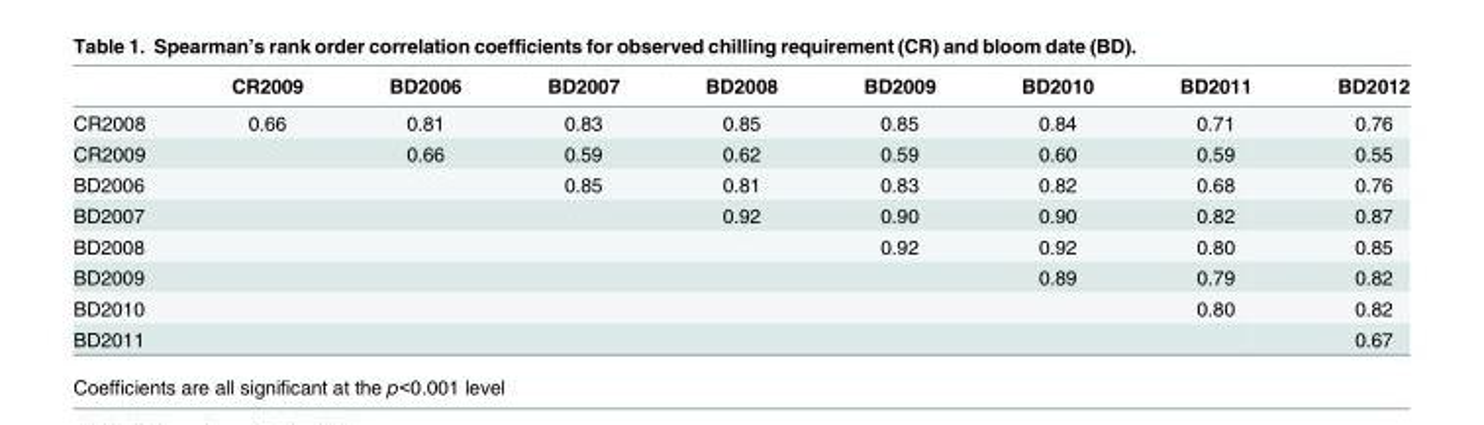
<table><thead><tr><td></td><td>CR2009</td><td>BD2006</td><td>BD2007</td><td>BD2008</td><td>BD2009</td><td>BD2010</td><td>BD2011</td><td>BD2012</td></tr></thead><tbody><tr><td>CR2008</td><td>0.66</td><td>0.81</td><td>0.83</td><td>0.85</td><td>0.85</td><td>0.84</td><td>0.71</td><td>0.76</td></tr><tr><td>CR2009</td><td></td><td>0.66</td><td>0.59</td><td>0.62</td><td>0.59</td><td>0.60</td><td>0.59</td><td>0.55</td></tr><tr><td>BD2006</td><td></td><td></td><td>0.85</td><td>0.81</td><td>0.83</td><td>0.82</td><td>0.68</td><td>0.76</td></tr><tr><td>BD2007</td><td></td><td></td><td></td><td>0.92</td><td>0.90</td><td>0.90</td><td>0.82</td><td>0.87</td></tr><tr><td>BD2008</td><td></td><td></td><td></td><td></td><td>0.92</td><td>0.92</td><td>0.80</td><td>0.85</td></tr><tr><td>BD2009</td><td></td><td></td><td></td><td></td><td></td><td>0.89</td><td>0.79</td><td>0.82</td></tr><tr><td>BD2010</td><td></td><td></td><td></td><td></td><td></td><td></td><td>0.80</td><td>0.82</td></tr><tr><td>BD2011</td><td></td><td></td><td></td><td></td><td></td><td></td><td></td><td>0.67</td></tr></tbody></table>